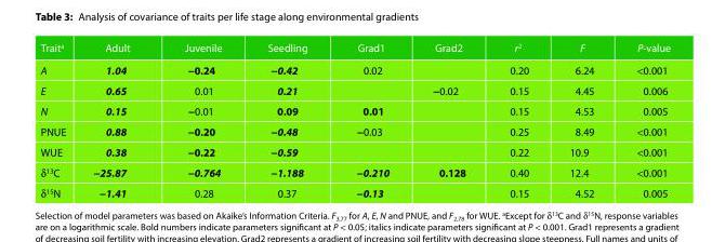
<table><thead><tr><td>Trait<sup>a</sup></td><td>Adult</td><td>Juvenile</td><td>Seedling</td><td>Grad1</td><td>Grad2</td><td>r<sup>2</sup></td><td>F</td><td>P-value</td></tr></thead><tbody><tr><td>A</td><td>1.04</td><td>−0.24</td><td>−0.42</td><td>0.02</td><td></td><td>0.20</td><td>6.24</td><td>&lt;0.001</td></tr><tr><td>E</td><td>0.65</td><td>0.01</td><td>0.21</td><td></td><td>−0.02</td><td>0.15</td><td>4.45</td><td>0.006</td></tr><tr><td>N</td><td>0.15</td><td>−0.01</td><td>0.09</td><td>0.01</td><td></td><td>0.15</td><td>4.53</td><td>0.005</td></tr><tr><td>PNUE</td><td>0.88</td><td>−0.20</td><td>−0.48</td><td>−0.03</td><td></td><td>0.25</td><td>8.49</td><td>&lt;0.001</td></tr><tr><td>WUE</td><td>0.38</td><td>−0.22</td><td>−0.59</td><td></td><td></td><td>0.22</td><td>10.9</td><td>&lt;0.001</td></tr><tr><td>δ<sup>13</sup>C</td><td>−25.87</td><td>−0.764</td><td>−1.188</td><td>−0.210</td><td>0.128</td><td>0.40</td><td>12.4</td><td>&lt;0.001</td></tr><tr><td>δ<sup>15</sup>N</td><td>−1.41</td><td>0.28</td><td>0.37</td><td>−0.13</td><td></td><td>0.15</td><td>4.52</td><td>0.005</td></tr></tbody></table>